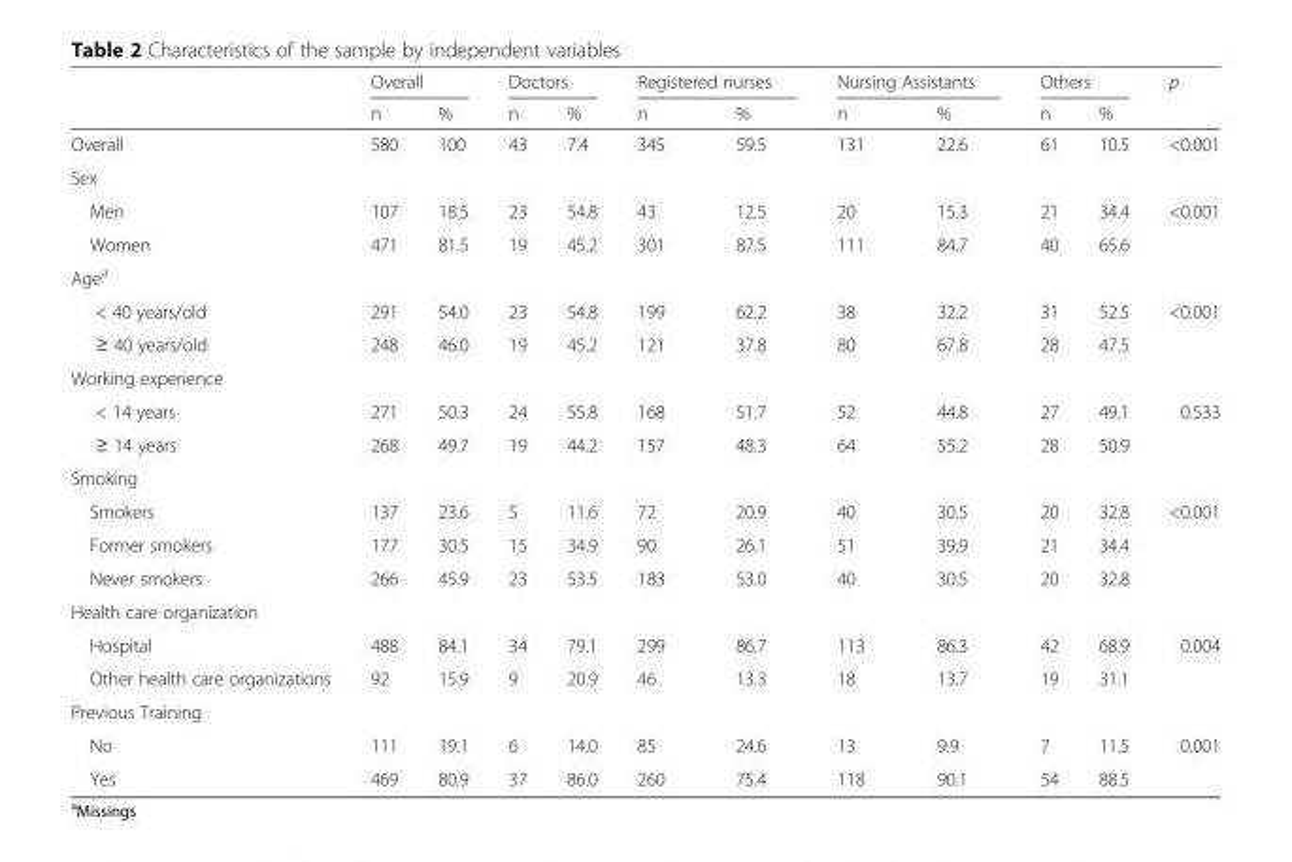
<table><thead><tr><td rowspan="2"></td><td colspan="2">Overall</td><td colspan="2">Doctors</td><td colspan="2">Registered nurses</td><td colspan="2">Nursing Assistants</td><td colspan="2">Others</td><td rowspan="2">p</td></tr><tr><td>n</td><td>%</td><td>n</td><td>%</td><td>n</td><td>%</td><td>n</td><td>%</td><td>n</td><td>%</td></tr></thead><tbody><tr><td>Overall</td><td>580</td><td>100</td><td>43</td><td>7.4</td><td>345</td><td>59.5</td><td>131</td><td>22.6</td><td>61</td><td>10.5</td><td>&lt;0.001</td></tr><tr><td colspan="12">Sex</td></tr><tr><td>Men</td><td>107</td><td>18.5</td><td>23</td><td>54.8</td><td>43</td><td>12.5</td><td>20</td><td>15.3</td><td>21</td><td>34.4</td><td rowspan="2">&lt;0.001</td></tr><tr><td>Women</td><td>471</td><td>81.5</td><td>19</td><td>45.2</td><td>301</td><td>87.5</td><td>111</td><td>84.7</td><td>40</td><td>65.6</td></tr><tr><td colspan="12">Age<sup>a</sup></td></tr><tr><td>&lt; 40 years/old</td><td>291</td><td>54.0</td><td>23</td><td>54.8</td><td>199</td><td>62.2</td><td>38</td><td>32.2</td><td>31</td><td>52.5</td><td rowspan="2">&lt;0.001</td></tr><tr><td>≥ 40 years/old</td><td>248</td><td>46.0</td><td>19</td><td>45.2</td><td>121</td><td>37.8</td><td>80</td><td>67.8</td><td>28</td><td>47.5</td></tr><tr><td colspan="12">Working experience</td></tr><tr><td>&lt; 14 years</td><td>271</td><td>50.3</td><td>24</td><td>55.8</td><td>168</td><td>51.7</td><td>52</td><td>44.8</td><td>27</td><td>49.1</td><td rowspan="2">0.533</td></tr><tr><td>≥ 14 years</td><td>268</td><td>49.7</td><td>19</td><td>44.2</td><td>157</td><td>48.3</td><td>64</td><td>55.2</td><td>28</td><td>50.9</td></tr><tr><td colspan="12">Smoking</td></tr><tr><td>Smokers</td><td>137</td><td>23.6</td><td>5</td><td>11.6</td><td>72</td><td>20.9</td><td>40</td><td>30.5</td><td>20</td><td>32.8</td><td rowspan="3">&lt;0.001</td></tr><tr><td>Former smokers</td><td>177</td><td>30.5</td><td>15</td><td>34.9</td><td>90</td><td>26.1</td><td>51</td><td>39.9</td><td>21</td><td>34.4</td></tr><tr><td>Never smokers</td><td>266</td><td>45.9</td><td>23</td><td>53.5</td><td>183</td><td>53.0</td><td>40</td><td>30.5</td><td>20</td><td>32.8</td></tr><tr><td colspan="12">Health care organization</td></tr><tr><td>Hospital</td><td>488</td><td>84.1</td><td>34</td><td>79.1</td><td>299</td><td>86.7</td><td>113</td><td>86.3</td><td>42</td><td>68.9</td><td rowspan="2">0.004</td></tr><tr><td>Other health care organizations</td><td>92</td><td>15.9</td><td>9</td><td>20.9</td><td>46</td><td>13.3</td><td>18</td><td>13.7</td><td>19</td><td>31.1</td></tr><tr><td colspan="12">Previous Training</td></tr><tr><td>No</td><td>111</td><td>19.1</td><td>6</td><td>14.0</td><td>85</td><td>24.6</td><td>13</td><td>9.9</td><td>7</td><td>11.5</td><td rowspan="2">0.001</td></tr><tr><td>Yes</td><td>469</td><td>80.9</td><td>37</td><td>86.0</td><td>260</td><td>75.4</td><td>118</td><td>90.1</td><td>54</td><td>88.5</td></tr></tbody></table>